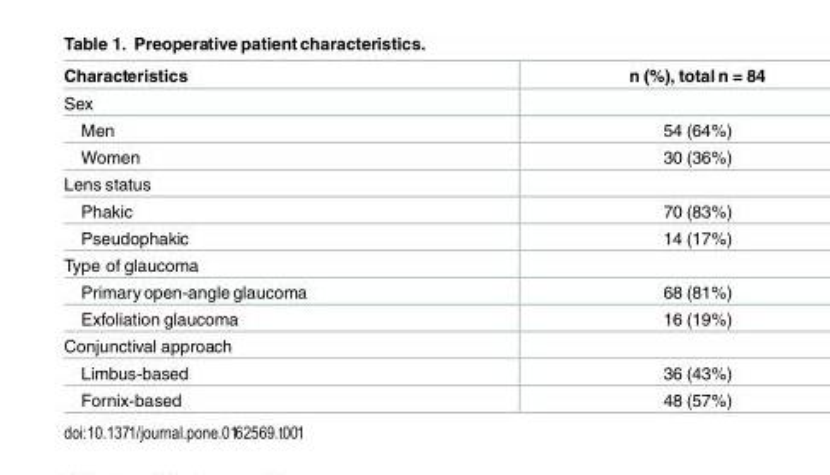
<table><thead><tr><td>Characteristics</td><td>n (%), total n = 84</td></tr></thead><tbody><tr><td colspan="2">Sex</td></tr><tr><td>Men</td><td>54 (64%)</td></tr><tr><td>Women</td><td>30 (36%)</td></tr><tr><td colspan="2">Lens status</td></tr><tr><td>Phakic</td><td>70 (83%)</td></tr><tr><td>Pseudophakic</td><td>14 (17%)</td></tr><tr><td colspan="2">Type of glaucoma</td></tr><tr><td>Primaryopen-angle glaucoma</td><td>68 (81%)</td></tr><tr><td>Exfoliation glaucoma</td><td>16 (19%)</td></tr><tr><td colspan="2">Conjunctival approach</td></tr><tr><td>Limbus-based</td><td>36 (43%)</td></tr><tr><td>Fornix-based</td><td>48 (57%)</td></tr></tbody></table>